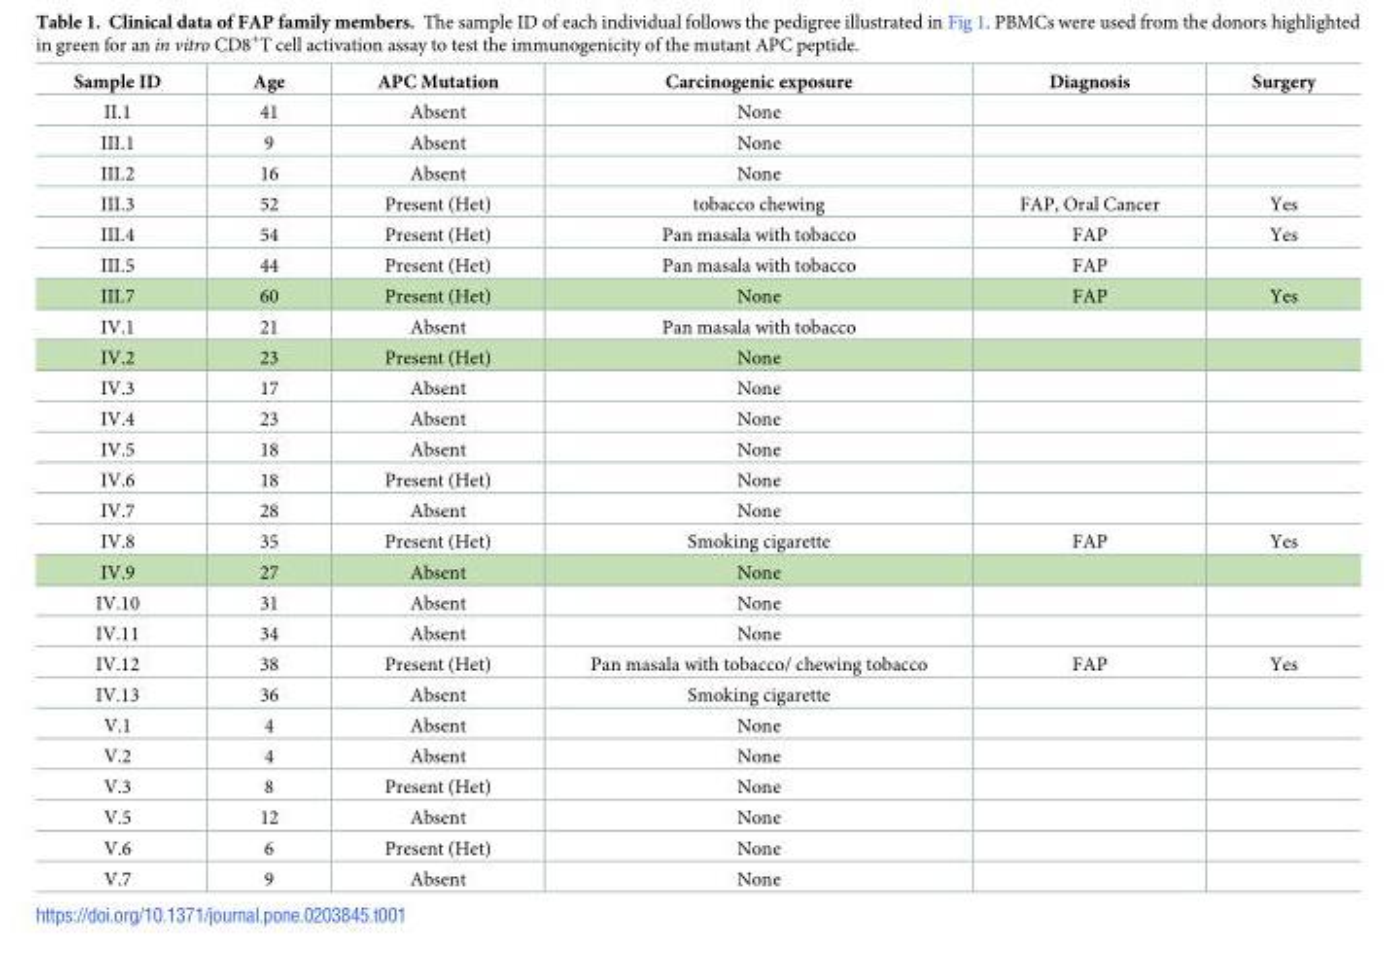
<table><thead><tr><td>Sample ID</td><td>Age</td><td>APC Mutation</td><td>Carcinogenic exposure</td><td>Diagnosis</td><td>Surgery</td></tr></thead><tbody><tr><td>II.1</td><td>41</td><td>Absent</td><td>None</td><td></td><td></td></tr><tr><td>III.1</td><td>9</td><td>Absent</td><td>None</td><td></td><td></td></tr><tr><td>III.2</td><td>16</td><td>Absent</td><td>None</td><td></td><td></td></tr><tr><td>III.3</td><td>52</td><td>Present (Het)</td><td>tobacco chewing</td><td>FAP, Oral Cancer</td><td>Yes</td></tr><tr><td>III.4</td><td>54</td><td>Present (Het)</td><td>Pan masala with tobacco</td><td>FAP</td><td>Yes</td></tr><tr><td>III.5</td><td>44</td><td>Present (Het)</td><td>Pan masala with tobacco</td><td>FAP</td><td></td></tr><tr><td>III.7</td><td>60</td><td>Present (Het)</td><td>None</td><td>FAP</td><td>Yes</td></tr><tr><td>IV.1</td><td>21</td><td>Absent</td><td>Pan masala with tobacco</td><td></td><td></td></tr><tr><td>IV.2</td><td>23</td><td>Present (Het)</td><td>None</td><td></td><td></td></tr><tr><td>IV.3</td><td>17</td><td>Absent</td><td>None</td><td></td><td></td></tr><tr><td>IV.4</td><td>23</td><td>Absent</td><td>None</td><td></td><td></td></tr><tr><td>IV.5</td><td>18</td><td>Absent</td><td>None</td><td></td><td></td></tr><tr><td>IV.6</td><td>18</td><td>Present (Het)</td><td>None</td><td></td><td></td></tr><tr><td>IV.7</td><td>28</td><td>Absent</td><td>None</td><td></td><td></td></tr><tr><td>IV.8</td><td>35</td><td>Present (Het)</td><td>Smoking cigarette</td><td>FAP</td><td>Yes</td></tr><tr><td>IV.9</td><td>27</td><td>Absent</td><td>None</td><td></td><td></td></tr><tr><td>IV.10</td><td>31</td><td>Absent</td><td>None</td><td></td><td></td></tr><tr><td>IV.11</td><td>34</td><td>Absent</td><td>None</td><td></td><td></td></tr><tr><td>IV.12</td><td>38</td><td>Present (Het)</td><td>Pan masala with tobacco/ chewing tobacco</td><td>FAP</td><td>Yes</td></tr><tr><td>IV.13</td><td>36</td><td>Absent</td><td>Smoking cigarette</td><td></td><td></td></tr><tr><td>V.1</td><td>4</td><td>Absent</td><td>None</td><td></td><td></td></tr><tr><td>V.2</td><td>4</td><td>Absent</td><td>None</td><td></td><td></td></tr><tr><td>V.3</td><td>8</td><td>Present (Het)</td><td>None</td><td></td><td></td></tr><tr><td>V.5</td><td>12</td><td>Absent</td><td>None</td><td></td><td></td></tr><tr><td>V.6</td><td>6</td><td>Present (Het)</td><td>None</td><td></td><td></td></tr><tr><td>V.7</td><td>9</td><td>Absent</td><td>None</td><td></td><td></td></tr></tbody></table>